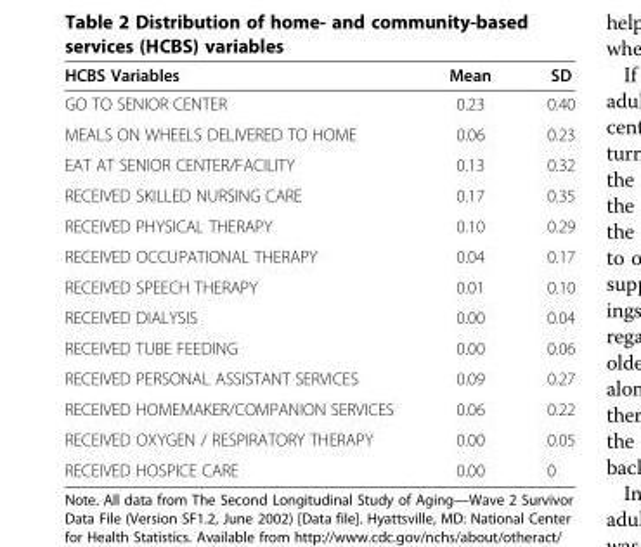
<table><thead><tr><td>HCBS Variables</td><td>Mean</td><td>SD</td></tr></thead><tbody><tr><td>GO TO SENIOR CENTER</td><td>0.23</td><td>0.40</td></tr><tr><td>MEALS ON WHEELS DELIVERED TO HOME</td><td>0.06</td><td>0.23</td></tr><tr><td>EAT AT SENIOR CENTER/FACILITY</td><td>0.13</td><td>0.32</td></tr><tr><td>RECEIVED SKILLED NURSING CARE</td><td>0.17</td><td>0.35</td></tr><tr><td>RECEIVED PHYSICAL THERAPY</td><td>0.10</td><td>0.29</td></tr><tr><td>RECEIVED OCCUPATIONAL THERAPY</td><td>0.04</td><td>0.17</td></tr><tr><td>RECEIVED SPEECH THERAPY</td><td>0.01</td><td>0.10</td></tr><tr><td>RECEIVED DIALYSIS</td><td>0.00</td><td>0.04</td></tr><tr><td>RECEIVED TUBE FEEDING</td><td>0.00</td><td>0.06</td></tr><tr><td>RECEIVED PERSONAL ASSISTANT SERVICES</td><td>0.09</td><td>0.27</td></tr><tr><td>RECEIVED HOMEMAKER/COMPANION SERVICES</td><td>0.06</td><td>0.22</td></tr><tr><td>RECEIVED OXYGEN / RESPIRATORY THERAPY</td><td>0.00</td><td>0.05</td></tr><tr><td>RECEIVED HOSPICE CARE</td><td>0.00</td><td>0</td></tr></tbody></table>